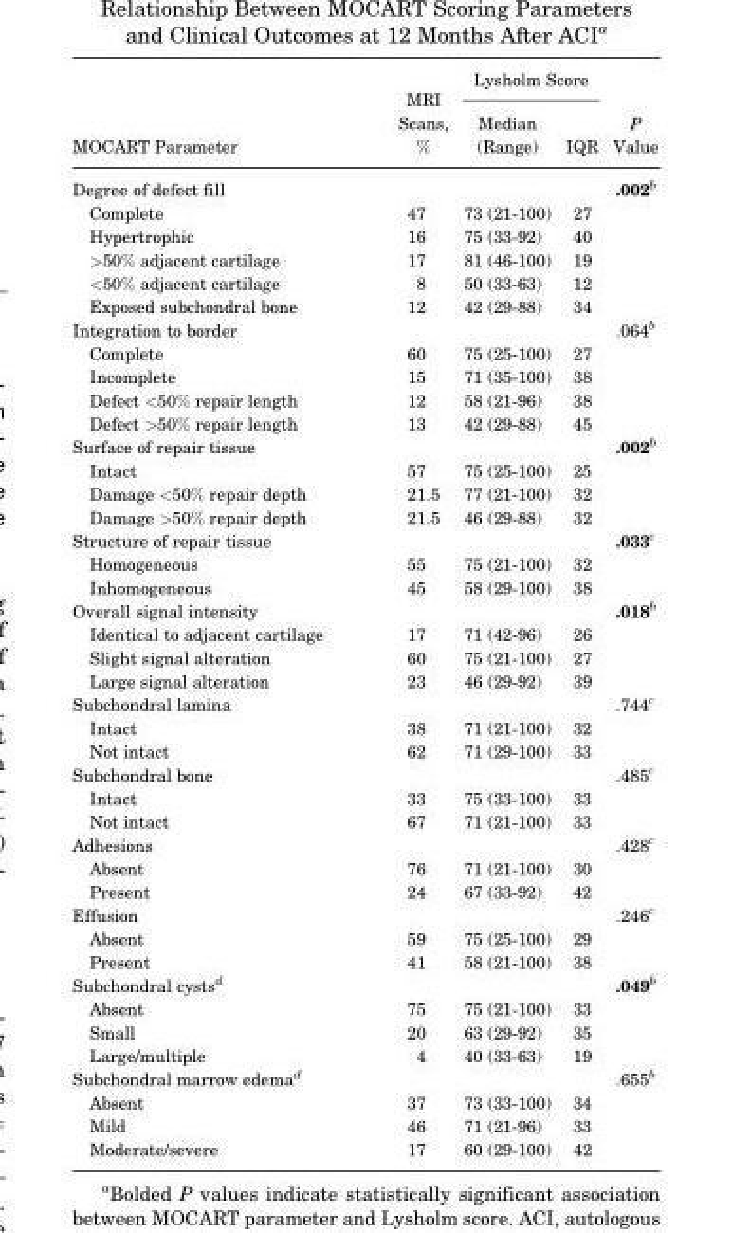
<table><thead><tr><td rowspan="2">MOCART Parameter</td><td rowspan="2">MRI Scans, %</td><td colspan="2">Lysholm Score</td><td rowspan="2">P Value</td></tr><tr><td>Median (Range)</td><td>IQR</td></tr></thead><tbody><tr><td>Degree of defect fill</td><td></td><td></td><td></td><td>.002<sup>b</sup></td></tr><tr><td>Complete</td><td>47</td><td>73 (21-100)</td><td>27</td><td rowspan="5"></td></tr><tr><td>Hypertrophic</td><td>16</td><td>75 (33-92)</td><td>40</td></tr><tr><td>&gt;50% adjacent cartilage</td><td>17</td><td>81 (46-100)</td><td>19</td></tr><tr><td>&lt;50% adjacent cartilage</td><td>8</td><td>50 (33-63)</td><td>12</td></tr><tr><td>Exposed subchondral bone</td><td>12</td><td>42 (29-88)</td><td>34</td></tr><tr><td>Integration to border</td><td></td><td></td><td></td><td>.064<sup>b</sup></td></tr><tr><td>Complete</td><td>60</td><td>75 (25-100)</td><td>27</td><td rowspan="4"></td></tr><tr><td>Incomplete</td><td>15</td><td>71 (35-100)</td><td>38</td></tr><tr><td>Defect &lt;50% repair length</td><td>12</td><td>58 (21-96)</td><td>38</td></tr><tr><td>Defect &gt;50% repair length</td><td>13</td><td>42 (29-88)</td><td>45</td></tr><tr><td>Surface of repair tissue</td><td></td><td></td><td></td><td>.002<sup>b</sup></td></tr><tr><td>Intact</td><td>57</td><td>75 (25-100)</td><td>25</td><td rowspan="3"></td></tr><tr><td>Damage &lt;50% repair depth</td><td>21.5</td><td>77 (21-100)</td><td>32</td></tr><tr><td>Damage &gt;50% repair depth</td><td>21.5</td><td>46 (29-88)</td><td>32</td></tr><tr><td>Structure of repair tissue</td><td></td><td></td><td></td><td>.033<sup>c</sup></td></tr><tr><td>Homogeneous</td><td>55</td><td>75 (21-100)</td><td>32</td><td rowspan="2"></td></tr><tr><td>Inhomogeneous</td><td>45</td><td>58 (29-100)</td><td>38</td></tr><tr><td>Overall signal intensity</td><td></td><td></td><td></td><td>.018<sup>b</sup></td></tr><tr><td>Identical to adjacent cartilage</td><td>17</td><td>71 (42-96)</td><td>26</td><td rowspan="3"></td></tr><tr><td>Slight signal alteration</td><td>60</td><td>75 (21-100)</td><td>27</td></tr><tr><td>Large signal alteration</td><td>23</td><td>46 (29-92)</td><td>39</td></tr><tr><td>Subchondral lamina</td><td></td><td></td><td></td><td>.744<sup>c</sup></td></tr><tr><td>Intact</td><td>38</td><td>71 (21-100)</td><td>32</td><td rowspan="2"></td></tr><tr><td>Not intact</td><td>62</td><td>71 (29-100)</td><td>33</td></tr><tr><td>Subchondral bone</td><td></td><td></td><td></td><td>.485<sup>c</sup></td></tr><tr><td>Intact</td><td>33</td><td>75 (33-100)</td><td>33</td><td rowspan="2"></td></tr><tr><td>Not intact</td><td>67</td><td>71 (21-100)</td><td>33</td></tr><tr><td>Adhesions</td><td></td><td></td><td></td><td>.428<sup>c</sup></td></tr><tr><td>Absent</td><td>76</td><td>71 (21-100)</td><td>30</td><td rowspan="2"></td></tr><tr><td>Present</td><td>24</td><td>67 (33-92)</td><td>42</td></tr><tr><td>Effusion</td><td></td><td></td><td></td><td>.246<sup>c</sup></td></tr><tr><td>Absent</td><td>59</td><td>75 (25-100)</td><td>29</td><td rowspan="2"></td></tr><tr><td>Present</td><td>41</td><td>58 (21-100)</td><td>38</td></tr><tr><td>Subchondral cysts<sup>d</sup></td><td></td><td></td><td></td><td>.049<sup>b</sup></td></tr><tr><td>Absent</td><td>75</td><td>75 (21-100)</td><td>33</td><td rowspan="3"></td></tr><tr><td>Small</td><td>20</td><td>63 (29-92)</td><td>35</td></tr><tr><td>Large/multiple</td><td>4</td><td>40 (33-63)</td><td>19</td></tr><tr><td>Subchondral marrow edema<sup>d</sup></td><td></td><td></td><td></td><td>.655<sup>b</sup></td></tr><tr><td>Absent</td><td>37</td><td>73 (33-100)</td><td>34</td><td rowspan="3"></td></tr><tr><td>Mild</td><td>46</td><td>71 (21-96)</td><td>33</td></tr><tr><td>Moderate/severe</td><td>17</td><td>60 (29-100)</td><td>42</td></tr></tbody></table>